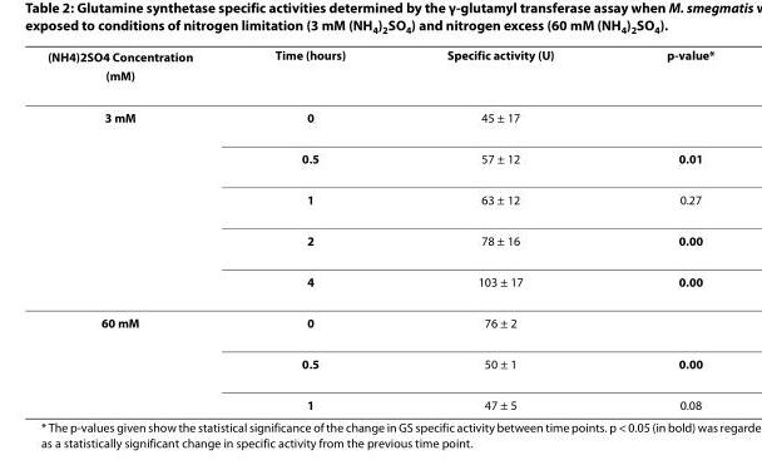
<table><thead><tr><td>(NH<sub>4</sub>)<sub>2</sub>SO<sub>4</sub> Concentration (mM)</td><td>Time (hours)</td><td>Specific activity (U)</td><td>p-value*</td></tr></thead><tbody><tr><td rowspan="5">3 mM</td><td>0</td><td>45 ± 17</td><td></td></tr><tr><td>0.5</td><td>57 ± 12</td><td>0.01</td></tr><tr><td>1</td><td>63 ± 12</td><td>0.27</td></tr><tr><td>2</td><td>78 ± 16</td><td>0.00</td></tr><tr><td>4</td><td>103 ± 17</td><td>0.00</td></tr><tr><td rowspan="3">60 mM</td><td>0</td><td>76 ± 2</td><td></td></tr><tr><td>0.5</td><td>50 ± 1</td><td>0.00</td></tr><tr><td>1</td><td>47 ± 5</td><td>0.08</td></tr></tbody></table>